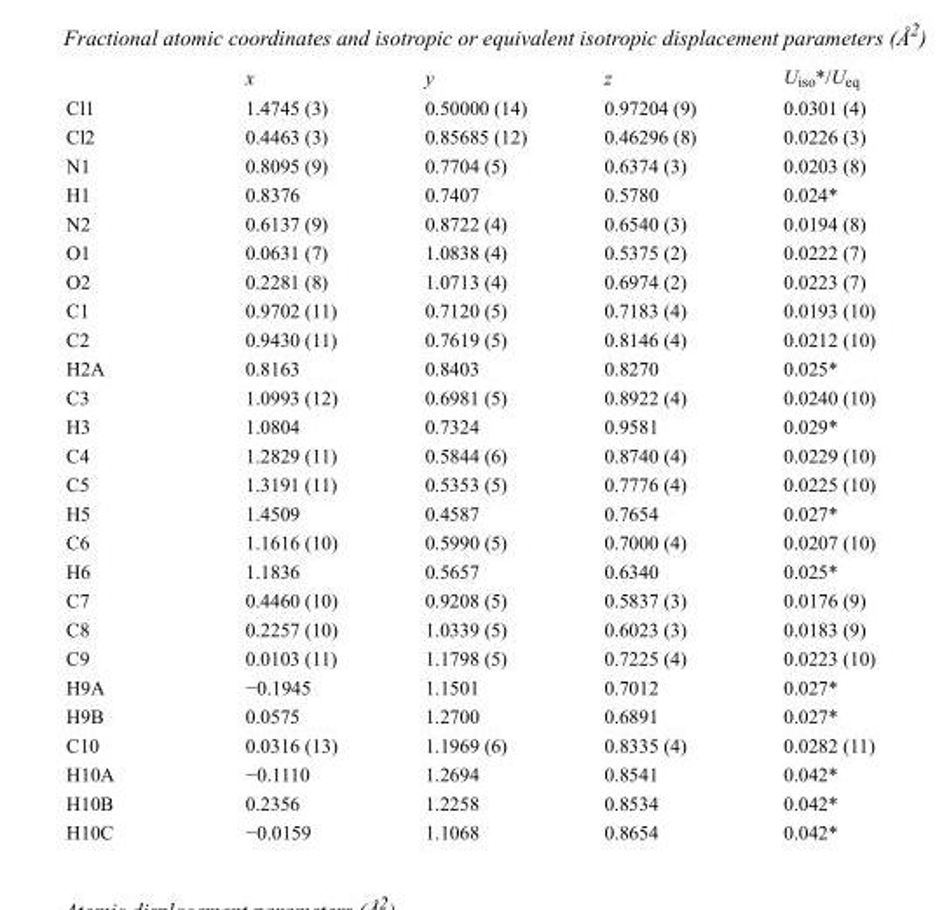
<table><thead><tr><td></td><td>x</td><td>y</td><td>z</td><td>U<sub>iso</sub>*/U<sub>eq</sub></td></tr></thead><tbody><tr><td>Cl1</td><td>1.4745 (3)</td><td>0.50000 (14)</td><td>0.97204 (9)</td><td>0.0301 (4)</td></tr><tr><td>Cl2</td><td>0.4463 (3)</td><td>0.85685 (12)</td><td>0.46296 (8)</td><td>0.0226 (3)</td></tr><tr><td>N1</td><td>0.8095 (9)</td><td>0.7704 (5)</td><td>0.6374 (3)</td><td>0.0203 (8)</td></tr><tr><td>H1</td><td>0.8376</td><td>0.7407</td><td>0.5780</td><td>0.024*</td></tr><tr><td>N2</td><td>0.6137 (9)</td><td>0.8722 (4)</td><td>0.6540 (3)</td><td>0.0194 (8)</td></tr><tr><td>O1</td><td>0.0631 (7)</td><td>1.0838 (4)</td><td>0.5375 (2)</td><td>0.0222 (7)</td></tr><tr><td>O2</td><td>0.2281 (8)</td><td>1.0713 (4)</td><td>0.6974 (2)</td><td>0.0223 (7)</td></tr><tr><td>C1</td><td>0.9702 (11)</td><td>0.7120 (5)</td><td>0.7183 (4)</td><td>0.0193 (10)</td></tr><tr><td>C2</td><td>0.9430 (11)</td><td>0.7619 (5)</td><td>0.8146 (4)</td><td>0.0212 (10)</td></tr><tr><td>H2A</td><td>0.8163</td><td>0.8403</td><td>0.8270</td><td>0.025*</td></tr><tr><td>C3</td><td>1.0993 (12)</td><td>0.6981 (5)</td><td>0.8922 (4)</td><td>0.0240 (10)</td></tr><tr><td>H3</td><td>1.0804</td><td>0.7324</td><td>0.9581</td><td>0.029*</td></tr><tr><td>C4</td><td>1.2829 (11)</td><td>0.5844 (6)</td><td>0.8740 (4)</td><td>0.0229 (10)</td></tr><tr><td>C5</td><td>1.3191 (11)</td><td>0.5353 (5)</td><td>0.7776 (4)</td><td>0.0225 (10)</td></tr><tr><td>H5</td><td>1.4509</td><td>0.4587</td><td>0.7654</td><td>0.027*</td></tr><tr><td>C6</td><td>1.1616 (10)</td><td>0.5990 (5)</td><td>0.7000 (4)</td><td>0.0207 (10)</td></tr><tr><td>H6</td><td>1.1836</td><td>0.5657</td><td>0.6340</td><td>0.025*</td></tr><tr><td>C7</td><td>0.4460 (10)</td><td>0.9208 (5)</td><td>0.5837 (3)</td><td>0.0176 (9)</td></tr><tr><td>C8</td><td>0.2257 (10)</td><td>1.0339 (5)</td><td>0.6023 (3)</td><td>0.0183 (9)</td></tr><tr><td>C9</td><td>0.0103 (11)</td><td>1.1798 (5)</td><td>0.7225 (4)</td><td>0.0223 (10)</td></tr><tr><td>H9A</td><td>−0.1945</td><td>1.1501</td><td>0.7012</td><td>0.027*</td></tr><tr><td>H9B</td><td>0.0575</td><td>1.2700</td><td>0.6891</td><td>0.027*</td></tr><tr><td>C10</td><td>0.0316 (13)</td><td>1.1969 (6)</td><td>0.8335 (4)</td><td>0.0282 (11)</td></tr><tr><td>H10A</td><td>−0.1110</td><td>1.2694</td><td>0.8541</td><td>0.042*</td></tr><tr><td>H10B</td><td>0.2356</td><td>1.2258</td><td>0.8534</td><td>0.042*</td></tr><tr><td>H10C</td><td>−0.0159</td><td>1.1068</td><td>0.8654</td><td>0.042*</td></tr></tbody></table>